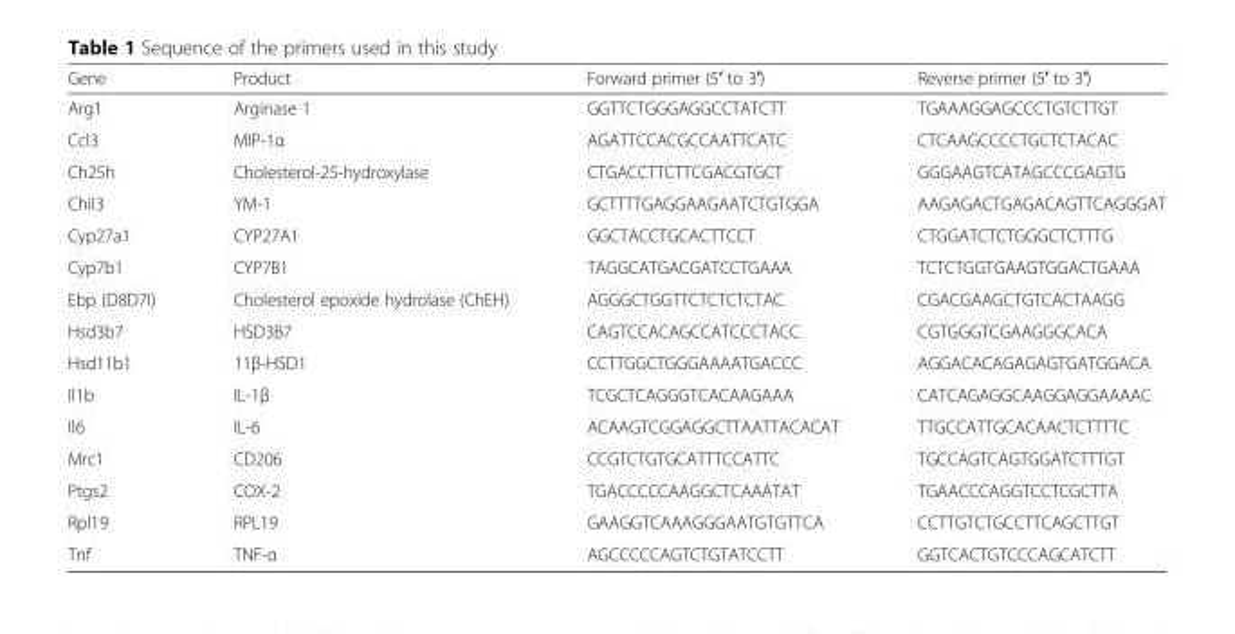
<table><thead><tr><td>Gene</td><td>Product</td><td>Forward primer (5′ to 3′)</td><td>Reverse primer (5′ to 3′)</td></tr></thead><tbody><tr><td>Arg1</td><td>Arginase 1</td><td>GGTTCTGGGAGGCCTATCTT</td><td>TGAAAGGAGCCCTGTCTTGT</td></tr><tr><td>Ccl3</td><td>MIP-1α</td><td>AGATTCCACGCCAATTCATC</td><td>CTCAAGCCCCTGCTCTACAC</td></tr><tr><td>Ch25h</td><td>Cholesterol-25-hydroxylase</td><td>CTGACCTTCTTCGACGTGCT</td><td>GGGAAGTCATAGCCCGAGTG</td></tr><tr><td>Chil3</td><td>YM-1</td><td>GCTTTTGAGGAAGAATCTGTGGA</td><td>AAGAGACTGAGACAGTTCAGGGAT</td></tr><tr><td>Cyp27a1</td><td>CYP27A1</td><td>GGCTACCTGCACTTCCT</td><td>CTGGATCTCTGGGCTCTTTG</td></tr><tr><td>Cyp7b1</td><td>CYP7B1</td><td>TAGGCATGACGATCCTGAAA</td><td>TCTCTGGTGAAGTGGACTGAAA</td></tr><tr><td>Ebp (D8D7I)</td><td>Cholesterol epoxide hydrolase (ChEH)</td><td>AGGGCTGGTTCTCTCTCTAC</td><td>CGACGAAGCTGTCACTAAGG</td></tr><tr><td>Hsd3b7</td><td>HSD3B7</td><td>CAGTCCACAGCCATCCCTACC</td><td>CGTGGGTCGAAGGGCACA</td></tr><tr><td>Hsd11b1</td><td>11β-HSD1</td><td>CCTTGGCTGGGAAAATGACCC</td><td>AGGACACAGAGAGTGATGGACA</td></tr><tr><td>Il1b</td><td>IL-1β</td><td>TCGCTCAGGGTCACAAGAAA</td><td>CATCAGAGGCAAGGAGGAAAAC</td></tr><tr><td>Il6</td><td>IL-6</td><td>ACAAGTCGGAGGCTTAATTACACAT</td><td>TTGCCATTGCACAACTCTTTTC</td></tr><tr><td>Mrc1</td><td>CD206</td><td>CCGTCTGTGCATTTCCATTC</td><td>TGCCAGTCAGTGGATCTTTGT</td></tr><tr><td>Ptgs2</td><td>COX-2</td><td>TGACCCCCAAGGCTCAAATAT</td><td>TGAACCCAGGTCCTCGCTTA</td></tr><tr><td>Rpl19</td><td>RPL19</td><td>GAAGGTCAAAGGGAATGTGTTCA</td><td>CCTTGTCTGCCTTCAGCTTGT</td></tr><tr><td>Tnf</td><td>TNF-α</td><td>AGCCCCCAGTCTGTATCCTT</td><td>GGTCACTGTCCCAGCATCTT</td></tr></tbody></table>